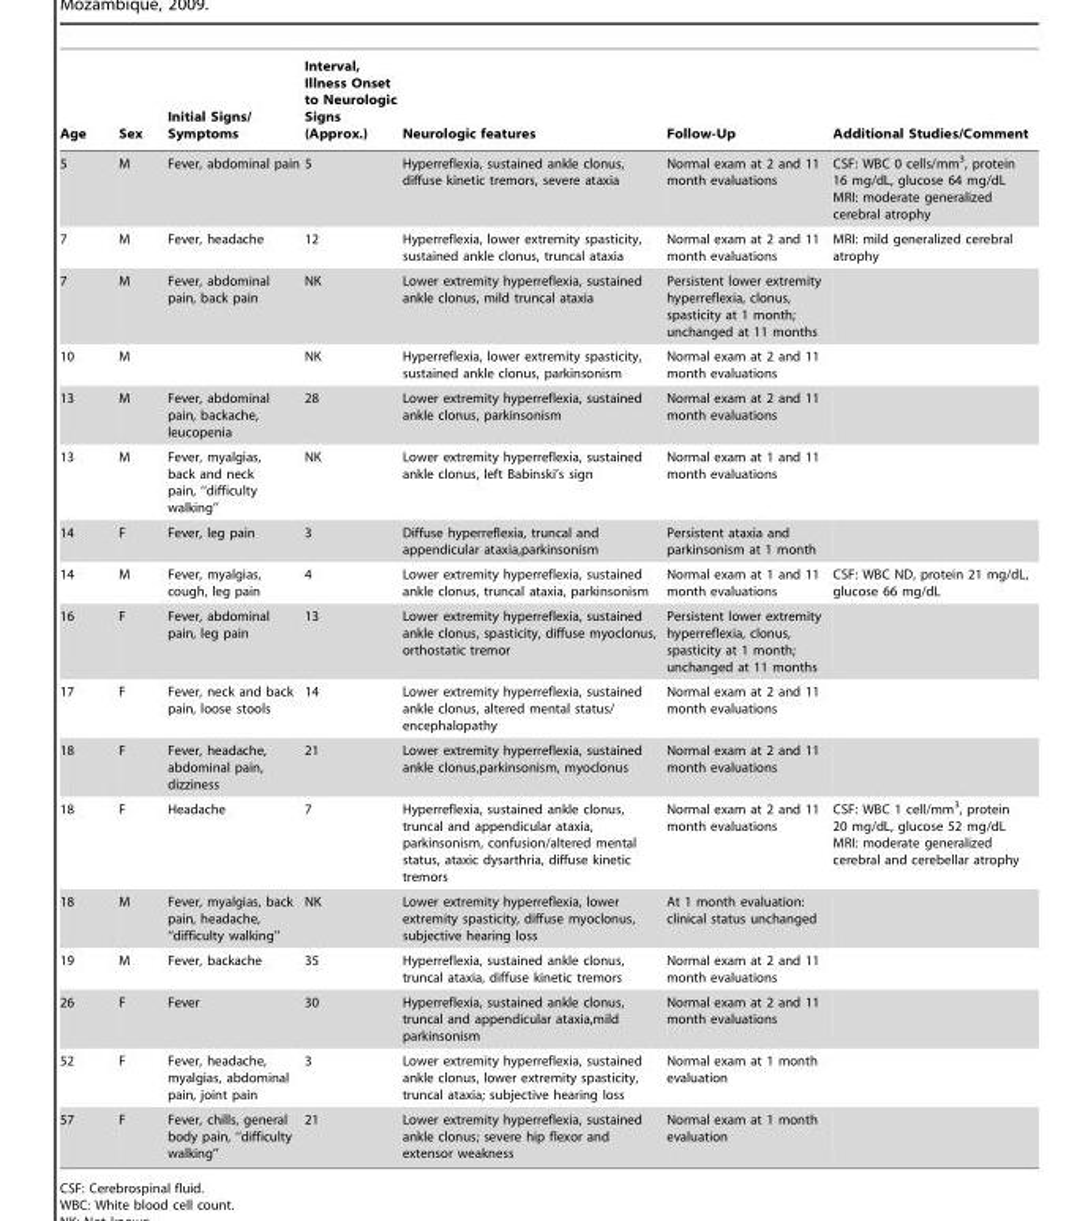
<table><thead><tr><td>Age</td><td>Sex</td><td>Initial Signs/ Symptoms</td><td>Interval, Illness Onset to Neurologic Signs (Approx.)</td><td>Neurologic features</td><td>Follow-Up</td><td>Additional Studies/Comment</td></tr></thead><tbody><tr><td>5</td><td>M</td><td>Fever, abdominal pain</td><td>5</td><td>Hyperreflexia, sustained ankle clonus, diffuse kinetic tremors, severe ataxia</td><td>Normal exam at 2 and 11 month evaluations</td><td>CSF: WBC 0 cells/mm<sup>3</sup>, protein 16 mg/dL, glucose 64 mg/dL MRI: moderate generalized cerebral atrophy</td></tr><tr><td>7</td><td>M</td><td>Fever, headache</td><td>12</td><td>Hyperreflexia, lower extremity spasticity, sustained ankle clonus, truncal ataxia</td><td>Normal exam at 2 and 11 month evaluations</td><td>MRI: mild generalized cerebral atrophy</td></tr><tr><td>7</td><td>M</td><td>Fever, abdominal pain, back pain</td><td>NK</td><td>Lower extremity hyperreflexia, sustained ankle clonus, mild truncal ataxia</td><td>Persistent lower extremity hyperreflexia, clonus, spasticity at 1 month; unchanged at 11 months</td><td></td></tr><tr><td>10</td><td>M</td><td></td><td>NK</td><td>Hyperreflexia, lower extremity spasticity, sustained ankle clonus, parkinsonism</td><td>Normal exam at 2 and 11 month evaluations</td><td></td></tr><tr><td>13</td><td>M</td><td>Fever, abdominal pain, backache, leucopenia</td><td>28</td><td>Lower extremity hyperreflexia, sustained ankle clonus, parkinsonism</td><td>Normal exam at 2 and 11 month evaluations</td><td></td></tr><tr><td>13</td><td>M</td><td>Fever, myalgias, back and neck pain, ‘‘difficulty walking’’</td><td>NK</td><td>Lower extremity hyperreflexia, sustained ankle clonus, left Babinski’s sign</td><td>Normal exam at 1 and 11 month evaluations</td><td></td></tr><tr><td>14</td><td>F</td><td>Fever, leg pain</td><td>3</td><td>Diffuse hyperreflexia, truncal and appendicular ataxia,parkinsonism</td><td>Persistent ataxia and parkinsonism at 1 month</td><td></td></tr><tr><td>14</td><td>M</td><td>Fever, myalgias, cough, leg pain</td><td>4</td><td>Lower extremity hyperreflexia, sustained ankle clonus, truncal ataxia, parkinsonism</td><td>Normal exam at 1 and 11 month evaluations</td><td>CSF: WBC ND, protein 21 mg/dL, glucose 66 mg/dL</td></tr><tr><td>16</td><td>F</td><td>Fever, abdominal pain, leg pain</td><td>13</td><td>Lower extremity hyperreflexia, sustained ankle clonus, spasticity, diffuse myoclonus, orthostatic tremor</td><td>Persistent lower extremity hyperreflexia, clonus, spasticity at 1 month; unchanged at 11 months</td><td></td></tr><tr><td>17</td><td>F</td><td>Fever, neck and back pain, loose stools</td><td>14</td><td>Lower extremity hyperreflexia, sustained ankle clonus, altered mental status/ encephalopathy</td><td>Normal exam at 2 and 11 month evaluations</td><td></td></tr><tr><td>18</td><td>F</td><td>Fever, headache, abdominal pain, dizziness</td><td>21</td><td>Lower extremity hyperreflexia, sustained ankle clonus,parkinsonism, myoclonus</td><td>Normal exam at 2 and 11 month evaluations</td><td></td></tr><tr><td>18</td><td>F</td><td>Headache</td><td>7</td><td>Hyperreflexia, sustained ankle clonus, truncal and appendicular ataxia, parkinsonism, confusion/altered mental status, ataxic dysarthria, diffuse kinetic tremors</td><td>Normal exam at 2 and 11 month evaluations</td><td>CSF: WBC 1 cell/mm<sup>3</sup>, protein 20 mg/dL, glucose 52 mg/dL MRI: moderate generalized cerebral and cerebellar atrophy</td></tr><tr><td>18</td><td>M</td><td>Fever, myalgias, back pain, headache, ‘‘difficulty walking’’</td><td>NK</td><td>Lower extremity hyperreflexia, lower extremity spasticity, diffuse myoclonus, subjective hearing loss</td><td>At 1 month evaluation: clinical status unchanged</td><td></td></tr><tr><td>19</td><td>M</td><td>Fever, backache</td><td>35</td><td>Hyperreflexia, sustained ankle clonus, truncal ataxia, diffuse kinetic tremors</td><td>Normal exam at 2 and 11 month evaluations</td><td></td></tr><tr><td>26</td><td>F</td><td>Fever</td><td>30</td><td>Hyperreflexia, sustained ankle clonus, truncal and appendicular ataxia,mild parkinsonism</td><td>Normal exam at 2 and 11 month evaluations</td><td></td></tr><tr><td>52</td><td>F</td><td>Fever, headache, myalgias, abdominal pain, joint pain</td><td>3</td><td>Lower extremity hyperreflexia, sustained ankle clonus, lower extremity spasticity, truncal ataxia; subjective hearing loss</td><td>Normal exam at 1 month evaluation</td><td></td></tr><tr><td>57</td><td>F</td><td>Fever, chills, general body pain, ‘‘difficulty walking’’</td><td>21</td><td>Lower extremity hyperreflexia, sustained ankle clonus; severe hip flexor and extensor weakness</td><td>Normal exam at 1 month evaluation</td><td></td></tr></tbody></table>